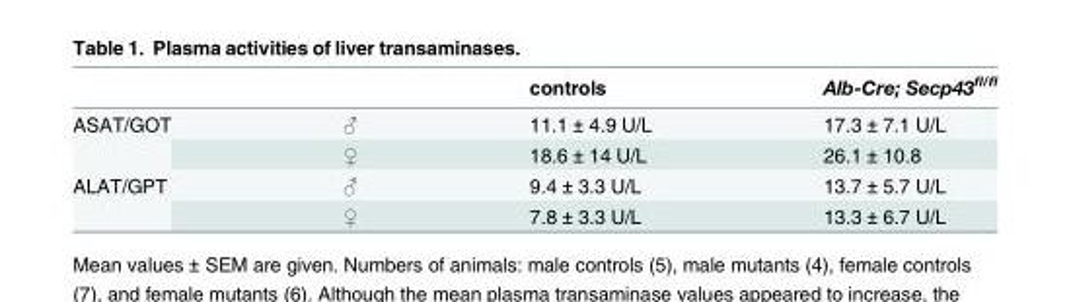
<table><thead><tr><td></td><td></td><td>controls</td><td>Alb-Cre; Secp43<sup>fl/fl</sup></td></tr></thead><tbody><tr><td rowspan="2">ASAT/GOT</td><td>♂</td><td>11.1 ± 4.9 U/L</td><td>17.3 ± 7.1 U/L</td></tr><tr><td>♀</td><td>18.6 ± 14 U/L</td><td>26.1 ± 10.8</td></tr><tr><td rowspan="2">ALAT/GPT</td><td>♂</td><td>9.4 ± 3.3 U/L</td><td>13.7 ± 5.7 U/L</td></tr><tr><td>♀</td><td>7.8 ± 3.3 U/L</td><td>13.3 ± 6.7 U/L</td></tr></tbody></table>